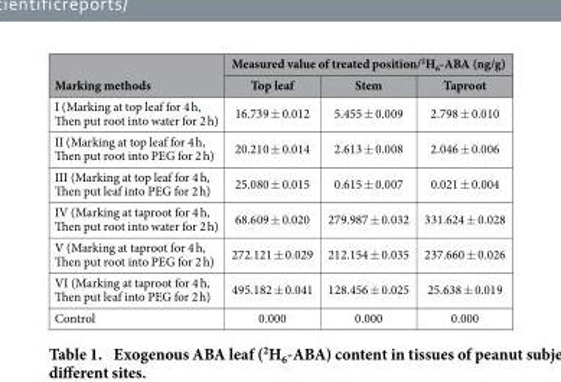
<table><thead><tr><td rowspan="2">Marking methods</td><td colspan="3">Measured value of treated position/<sup>2</sup>H<sub>6</sub>-ABA (ng/g)</td></tr><tr><td>Top leaf</td><td>Stem</td><td>Taproot</td></tr></thead><tbody><tr><td>I (Marking at top leaf for 4 h, Then put root into water for 2 h)</td><td>16.739 ± 0.012</td><td>5.455 ± 0.009</td><td>2.798 ± 0.010</td></tr><tr><td>II (Marking at top leaf for 4 h, Then put root into PEG for 2 h)</td><td>20.210 ± 0.014</td><td>2.613 ± 0.008</td><td>2.046 ± 0.006</td></tr><tr><td>III (Marking at top leaf for 4 h, Then put leaf into PEG for 2 h)</td><td>25.080 ± 0.015</td><td>0.615 ± 0.007</td><td>0.021 ± 0.004</td></tr><tr><td>IV (Marking at taproot for 4 h, Then put root into water for 2 h)</td><td>68.609 ± 0.020</td><td>279.987 ± 0.032</td><td>331.624 ± 0.028</td></tr><tr><td>V (Marking at taproot for 4 h, Then put root into PEG for 2 h)</td><td>272.121 ± 0.029</td><td>212.154 ± 0.035</td><td>237.660 ± 0.026</td></tr><tr><td>VI (Marking at taproot for 4 h, Then put leaf into PEG for 2 h)</td><td>495.182 ± 0.041</td><td>128.456 ± 0.025</td><td>25.638 ± 0.019</td></tr><tr><td>Control</td><td>0.000</td><td>0.000</td><td>0.000</td></tr></tbody></table>